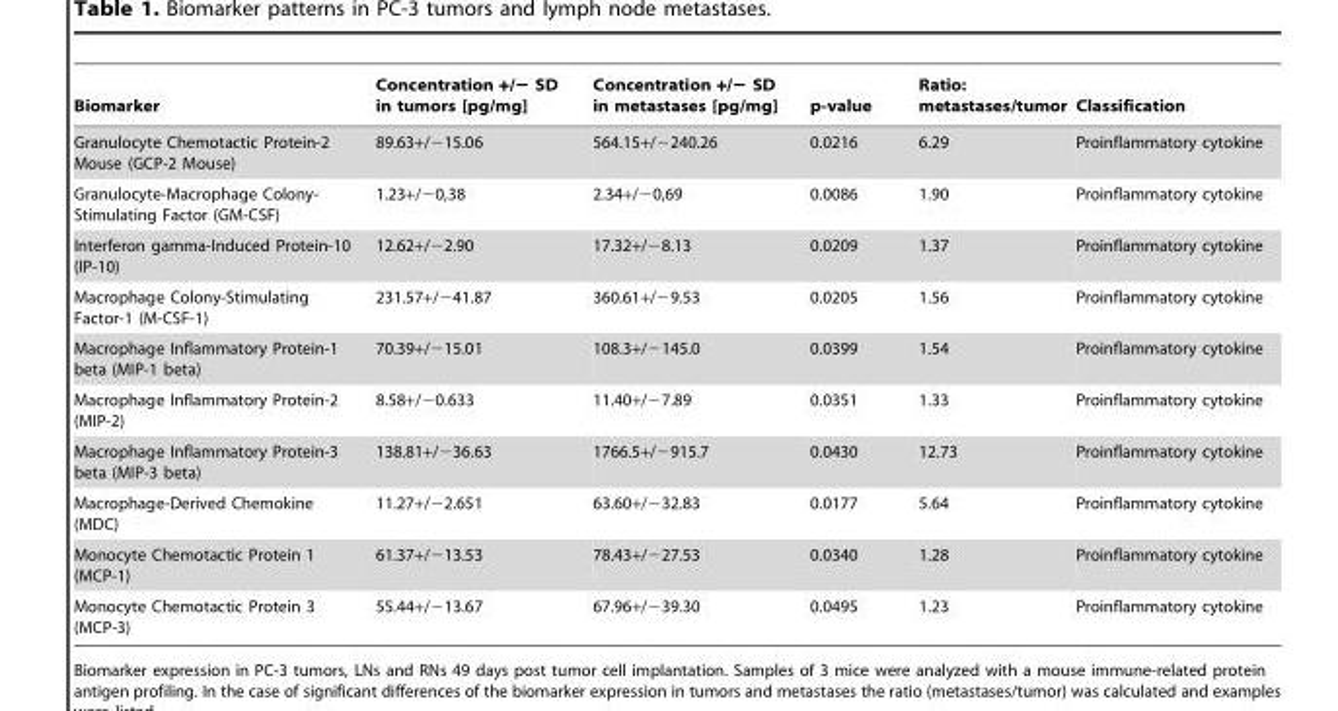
<table><thead><tr><td>Biomarker</td><td>Concentration +/− SD in tumors [pg/mg]</td><td>Concentration +/− SD in metastases [pg/mg]</td><td>p-value</td><td>Ratio: metastases/tumor</td><td>Classification</td></tr></thead><tbody><tr><td>Granulocyte Chemotactic Protein-2 Mouse (GCP-2 Mouse)</td><td>89.63+/−15.06</td><td>564.15+/−240.26</td><td>0.0216</td><td>6.29</td><td>Proinflammatory cytokine</td></tr><tr><td>Granulocyte-Macrophage Colony- Stimulating Factor (GM-CSF)</td><td>1.23+/−0,38</td><td>2.34+/−0,69</td><td>0.0086</td><td>1.90</td><td>Proinflammatory cytokine</td></tr><tr><td>Interferon gamma-Induced Protein-10 (IP-10)</td><td>12.62+/−2.90</td><td>17.32+/−8.13</td><td>0.0209</td><td>1.37</td><td>Proinflammatory cytokine</td></tr><tr><td>Macrophage Colony-Stimulating Factor-1 (M-CSF-1)</td><td>231.57+/−41.87</td><td>360.61+/−9.53</td><td>0.0205</td><td>1.56</td><td>Proinflammatory cytokine</td></tr><tr><td>Macrophage Inflammatory Protein-1 beta (MIP-1 beta)</td><td>70.39+/−15.01</td><td>108.3+/−145.0</td><td>0.0399</td><td>1.54</td><td>Proinflammatory cytokine</td></tr><tr><td>Macrophage Inflammatory Protein-2 (MIP-2)</td><td>8.58+/−0.633</td><td>11.40+/−7.89</td><td>0.0351</td><td>1.33</td><td>Proinflammatory cytokine</td></tr><tr><td>Macrophage Inflammatory Protein-3 beta (MIP-3 beta)</td><td>138.81+/−36.63</td><td>1766.5+/−915.7</td><td>0.0430</td><td>12.73</td><td>Proinflammatory cytokine</td></tr><tr><td>Macrophage-Derived Chemokine (MDC)</td><td>11.27+/−2.651</td><td>63.60+/−32.83</td><td>0.0177</td><td>5.64</td><td>Proinflammatory cytokine</td></tr><tr><td>Monocyte Chemotactic Protein 1 (MCP-1)</td><td>61.37+/−13.53</td><td>78.43+/−27.53</td><td>0.0340</td><td>1.28</td><td>Proinflammatory cytokine</td></tr><tr><td>Monocyte Chemotactic Protein 3 (MCP-3)</td><td>55.44+/−13.67</td><td>67.96+/−39.30</td><td>0.0495</td><td>1.23</td><td>Proinflammatory cytokine</td></tr></tbody></table>